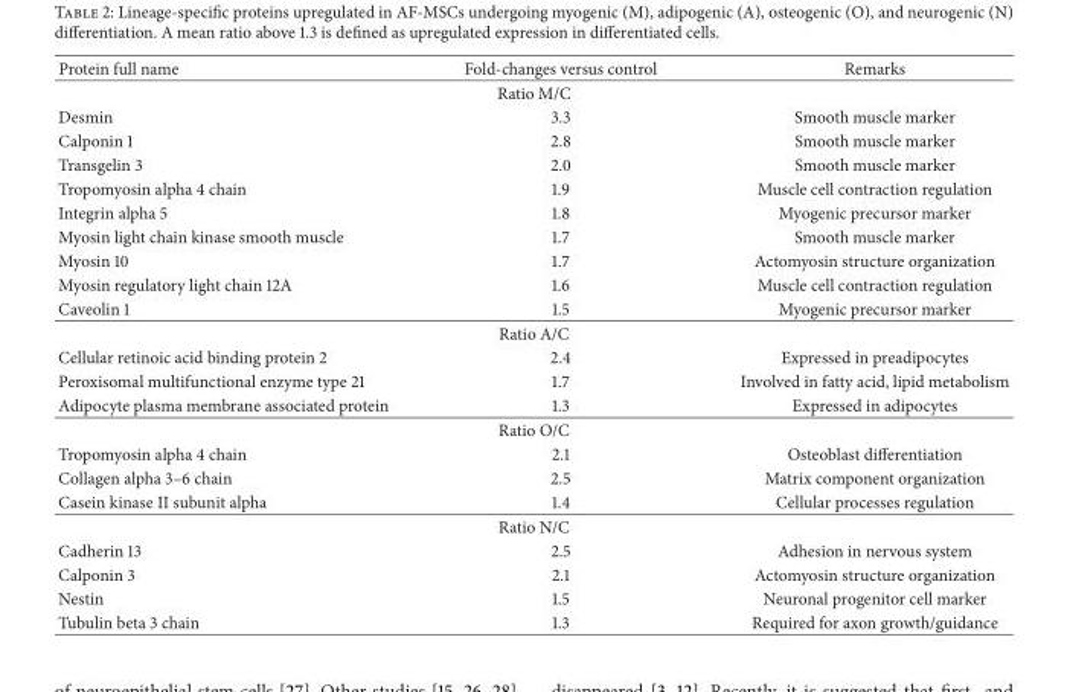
<table><thead><tr><td>Protein full name</td><td>Fold-changes versus control</td><td>Remarks</td></tr></thead><tbody><tr><td colspan="3">Ratio M/C</td></tr><tr><td>Desmin</td><td>3.3</td><td>Smooth muscle marker</td></tr><tr><td>Calponin 1</td><td>2.8</td><td>Smooth muscle marker</td></tr><tr><td>Transgelin 3</td><td>2.0</td><td>Smooth muscle marker</td></tr><tr><td>Tropomyosin alpha 4 chain</td><td>1.9</td><td>Muscle cell contraction regulation</td></tr><tr><td>Integrin alpha 5</td><td>1.8</td><td>Myogenic precursor marker</td></tr><tr><td>Myosin light chain kinase smooth muscle</td><td>1.7</td><td>Smooth muscle marker</td></tr><tr><td>Myosin 10</td><td>1.7</td><td>Actomyosin structure organization</td></tr><tr><td>Myosin regulatory light chain 12A</td><td>1.6</td><td>Muscle cell contraction regulation</td></tr><tr><td>Caveolin 1</td><td>1.5</td><td>Myogenic precursor marker</td></tr><tr><td colspan="3">Ratio A/C</td></tr><tr><td>Cellular retinoic acid binding protein 2</td><td>2.4</td><td>Expressed in preadipocytes</td></tr><tr><td>Peroxisomal multifunctional enzyme type 21</td><td>1.7</td><td>Involved in fatty acid, lipid metabolism</td></tr><tr><td>Adipocyte plasma membrane associated protein</td><td>1.3</td><td>Expressed in adipocytes</td></tr><tr><td colspan="3">Ratio O/C</td></tr><tr><td>Tropomyosin alpha 4 chain</td><td>2.1</td><td>Osteoblast differentiation</td></tr><tr><td>Collagen alpha 3–6 chain</td><td>2.5</td><td>Matrix component organization</td></tr><tr><td>Casein kinase II subunit alpha</td><td>1.4</td><td>Cellular processes regulation</td></tr><tr><td colspan="3">Ratio N/C</td></tr><tr><td>Cadherin 13</td><td>2.5</td><td>Adhesion in nervous system</td></tr><tr><td>Calponin 3</td><td>2.1</td><td>Actomyosin structure organization</td></tr><tr><td>Nestin</td><td>1.5</td><td>Neuronal progenitor cell marker</td></tr><tr><td>Tubulin beta 3 chain</td><td>1.3</td><td>Required for axon growth/guidance</td></tr></tbody></table>